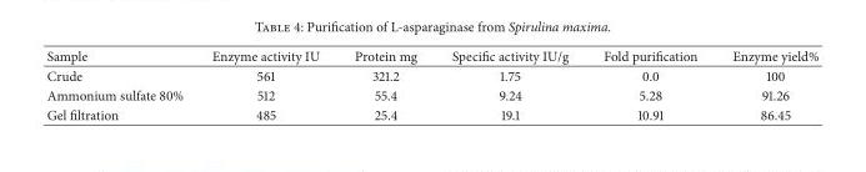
<table><thead><tr><td>Sample</td><td>Enzyme activity IU</td><td>Protein mg</td><td>Specific activity IU/g</td><td>Fold purification</td><td>Enzyme yield%</td></tr></thead><tbody><tr><td>Crude</td><td>561</td><td>321.2</td><td>1.75</td><td>0.0</td><td>100</td></tr><tr><td>Ammonium sulfate 80%</td><td>512</td><td>55.4</td><td>9.24</td><td>5.28</td><td>91.26</td></tr><tr><td>Gel filtration</td><td>485</td><td>25.4</td><td>19.1</td><td>10.91</td><td>86.45</td></tr></tbody></table>